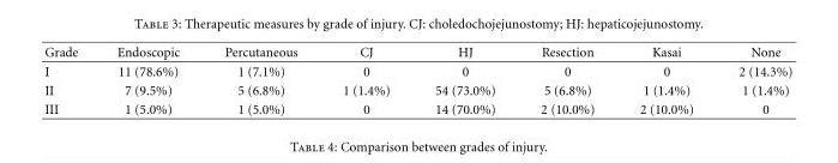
<table><thead><tr><td>Grade</td><td>Endoscopic</td><td>Percutaneous</td><td>CJ</td><td>HJ</td><td>Resection</td><td>Kasai</td><td>None</td></tr></thead><tbody><tr><td>I</td><td>11 (78.6%)</td><td>1 (7.1%)</td><td>0</td><td>0</td><td>0</td><td>0</td><td>2 (14.3%)</td></tr><tr><td>II</td><td>7 (9.5%)</td><td>5 (6.8%)</td><td>1 (1.4%)</td><td>54 (73.0%)</td><td>5 (6.8%)</td><td>1 (1.4%)</td><td>1 (1.4%)</td></tr><tr><td>III</td><td>1 (5.0%)</td><td>1 (5.0%)</td><td>0</td><td>14 (70.0%)</td><td>2 (10.0%)</td><td>2 (10.0%)</td><td>0</td></tr></tbody></table>